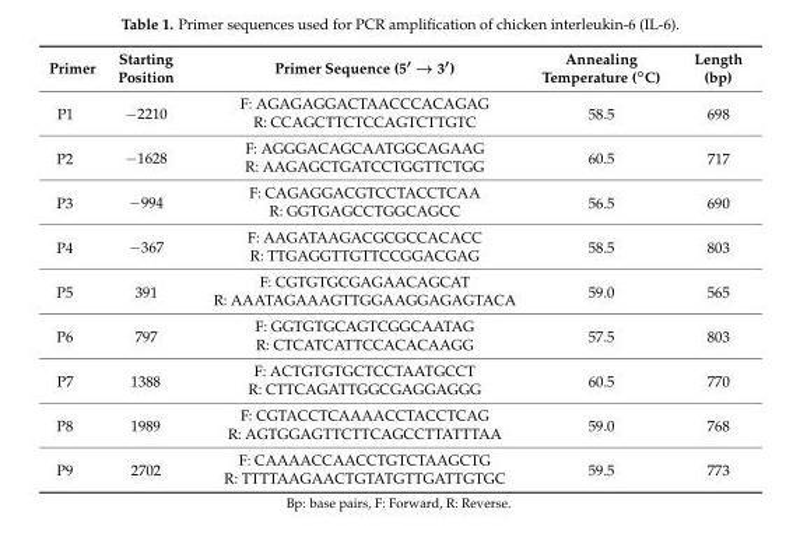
<table><thead><tr><td>Primer</td><td>Starting Position</td><td>Primer Sequence (5′ → 3′)</td><td>Annealing Temperature (◦C)</td><td>Length (bp)</td></tr></thead><tbody><tr><td rowspan="2">P1</td><td rowspan="2">−2210</td><td>F: AGAGAGGACTAACCCACAGAG</td><td rowspan="2">58.5</td><td rowspan="2">698</td></tr><tr><td>R: CCAGCTTCTCCAGTCTTGTC</td></tr><tr><td rowspan="2">P2</td><td rowspan="2">−1628</td><td>F: AGGGACAGCAATGGCAGAAG</td><td rowspan="2">60.5</td><td rowspan="2">717</td></tr><tr><td>R: AAGAGCTGATCCTGGTTCTGG</td></tr><tr><td rowspan="2">P3</td><td rowspan="2">−994</td><td>F: CAGAGGACGTCCTACCTCAA</td><td rowspan="2">56.5</td><td rowspan="2">690</td></tr><tr><td>R: GGTGAGCCTGGCAGCC</td></tr><tr><td rowspan="2">P4</td><td rowspan="2">−367</td><td>F: AAGATAAGACGCGCCACACC</td><td rowspan="2">58.5</td><td rowspan="2">803</td></tr><tr><td>R: TTGAGGTTGTTCCGGACGAG</td></tr><tr><td rowspan="2">P5</td><td rowspan="2">391</td><td>F: CGTGTGCGAGAACAGCAT</td><td rowspan="2">59.0</td><td rowspan="2">565</td></tr><tr><td>R: AAATAGAAAGTTGGAAGGAGAGTACA</td></tr><tr><td rowspan="2">P6</td><td rowspan="2">797</td><td>F: GGTGTGCAGTCGGCAATAG</td><td rowspan="2">57.5</td><td rowspan="2">803</td></tr><tr><td>R: CTCATCATTCCACACAAGG</td></tr><tr><td rowspan="2">P7</td><td rowspan="2">1388</td><td>F: ACTGTGTGCTCCTAATGCCT</td><td rowspan="2">60.5</td><td rowspan="2">770</td></tr><tr><td>R: CTTCAGATTGGCGAGGAGGG</td></tr><tr><td rowspan="2">P8</td><td rowspan="2">1989</td><td>F: CGTACCTCAAAACCTACCTCAG</td><td rowspan="2">59.0</td><td rowspan="2">768</td></tr><tr><td>R: AGTGGAGTTCTTCAGCCTTATTTAA</td></tr><tr><td rowspan="2">P9</td><td rowspan="2">2702</td><td>F: CAAAACCAACCTGTCTAAGCTG</td><td rowspan="2">59.5</td><td rowspan="2">773</td></tr><tr><td>R: TTTTAAGAACTGTATGTTGATTGTGC</td></tr></tbody></table>